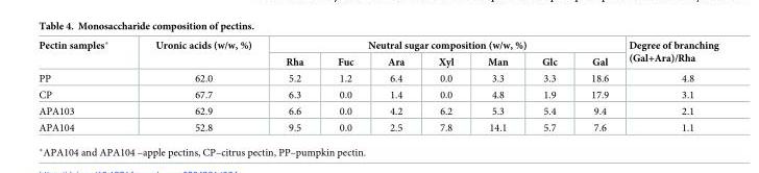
<table><thead><tr><td rowspan="2">Pectin samples*</td><td rowspan="2">Uronic acids (w/w, %)</td><td colspan="7">Neutral sugar composition (w/w, %)</td><td rowspan="2">Degree of branching (Gal+Ara)/Rha</td></tr><tr><td>Rha</td><td>Fuc</td><td>Ara</td><td>Xyl</td><td>Man</td><td>Glc</td><td>Gal</td></tr></thead><tbody><tr><td>PP</td><td>62.0</td><td>5.2</td><td>1.2</td><td>6.4</td><td>0.0</td><td>3.3</td><td>3.3</td><td>18.6</td><td>4.8</td></tr><tr><td>CP</td><td>67.7</td><td>6.3</td><td>0.0</td><td>1.4</td><td>0.0</td><td>4.8</td><td>1.9</td><td>17.9</td><td>3.1</td></tr><tr><td>APA103</td><td>62.9</td><td>6.6</td><td>0.0</td><td>4.2</td><td>6.2</td><td>5.3</td><td>5.4</td><td>9.4</td><td>2.1</td></tr><tr><td>APA104</td><td>52.8</td><td>9.5</td><td>0.0</td><td>2.5</td><td>7.8</td><td>14.1</td><td>5.7</td><td>7.6</td><td>1.1</td></tr></tbody></table>